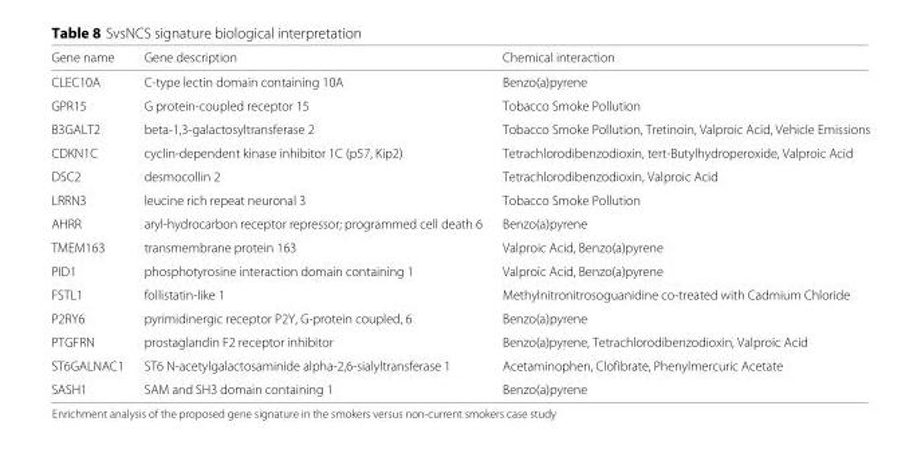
<table><thead><tr><td>Gene name</td><td>Gene description</td><td>Chemical interaction</td></tr></thead><tbody><tr><td>CLEC10A</td><td>C-type lectin domain containing 10A</td><td>Benzo(a)pyrene</td></tr><tr><td>GPR15</td><td>G protein-coupled receptor 15</td><td>Tobacco Smoke Pollution</td></tr><tr><td>B3GALT2</td><td>beta-1,3-galactosyltransferase 2</td><td>Tobacco Smoke Pollution, Tretinoin, Valproic Acid, Vehicle Emissions</td></tr><tr><td>CDKN1C</td><td>cyclin-dependent kinase inhibitor 1C (p57, Kip2)</td><td>Tetrachlorodibenzodioxin, tert-Butylhydroperoxide, Valproic Acid</td></tr><tr><td>DSC2</td><td>desmocollin 2</td><td>Tetrachlorodibenzodioxin, Valproic Acid</td></tr><tr><td>LRRN3</td><td>leucine rich repeat neuronal 3</td><td>Tobacco Smoke Pollution</td></tr><tr><td>AHRR</td><td>aryl-hydrocarbon receptor repressor; programmed cell death 6</td><td>Benzo(a)pyrene</td></tr><tr><td>TMEM163</td><td>transmembrane protein 163</td><td>Valproic Acid, Benzo(a)pyrene</td></tr><tr><td>PID1</td><td>phosphotyrosine interaction domain containing 1</td><td>Valproic Acid, Benzo(a)pyrene</td></tr><tr><td>FSTL1</td><td>follistatin-like 1</td><td>Methylnitronitrosoguanidine co-treated with Cadmium Chloride</td></tr><tr><td>P2RY6</td><td>pyrimidinergic receptor P2Y, G-protein coupled, 6</td><td>Benzo(a)pyrene</td></tr><tr><td>PTGFRN</td><td>prostaglandin F2 receptor inhibitor</td><td>Benzo(a)pyrene, Tetrachlorodibenzodioxin, Valproic Acid</td></tr><tr><td>ST6GALNAC1</td><td>ST6 N-acetylgalactosaminide alpha-2,6-sialyltransferase 1</td><td>Acetaminophen, Clofibrate, Phenylmercuric Acetate</td></tr><tr><td>SASH1</td><td>SAM and SH3 domain containing 1</td><td>Benzo(a)pyrene</td></tr></tbody></table>